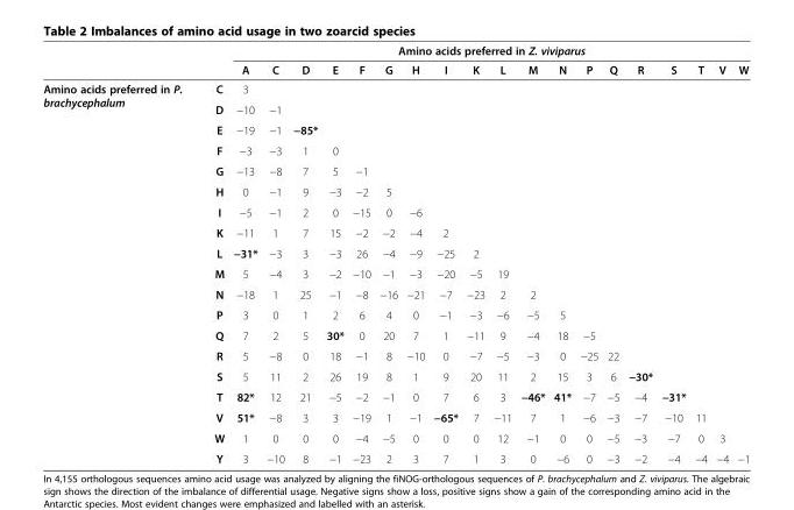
<table><thead><tr><td rowspan="2"></td><td rowspan="2"></td><td colspan="19">Amino acids preferred in Z. viviparus</td></tr><tr><td>A</td><td>C</td><td>D</td><td>E</td><td>F</td><td>G</td><td>H</td><td>I</td><td>K</td><td>L</td><td>M</td><td>N</td><td>P</td><td>Q</td><td>R</td><td>S</td><td>T</td><td>V</td><td>W</td></tr></thead><tbody><tr><td rowspan="19">Amino acids preferred in P. brachycephalum</td><td>C</td><td>3</td><td></td><td></td><td></td><td></td><td></td><td></td><td></td><td></td><td></td><td></td><td></td><td></td><td></td><td></td><td></td><td></td><td></td><td></td></tr><tr><td>D</td><td>−10</td><td>−1</td><td></td><td></td><td></td><td></td><td></td><td></td><td></td><td></td><td></td><td></td><td></td><td></td><td></td><td></td><td></td><td></td><td></td></tr><tr><td>E</td><td>−19</td><td>−1</td><td>−85*</td><td></td><td></td><td></td><td></td><td></td><td></td><td></td><td></td><td></td><td></td><td></td><td></td><td></td><td></td><td></td><td></td></tr><tr><td>F</td><td>−3</td><td>−3</td><td>1</td><td>0</td><td></td><td></td><td></td><td></td><td></td><td></td><td></td><td></td><td></td><td></td><td></td><td></td><td></td><td></td><td></td></tr><tr><td>G</td><td>−13</td><td>−8</td><td>7</td><td>5</td><td>−1</td><td></td><td></td><td></td><td></td><td></td><td></td><td></td><td></td><td></td><td></td><td></td><td></td><td></td><td></td></tr><tr><td>H</td><td>0</td><td>−1</td><td>9</td><td>−3</td><td>−2</td><td>5</td><td></td><td></td><td></td><td></td><td></td><td></td><td></td><td></td><td></td><td></td><td></td><td></td><td></td></tr><tr><td>I</td><td>−5</td><td>−1</td><td>2</td><td>0</td><td>−15</td><td>0</td><td>−6</td><td></td><td></td><td></td><td></td><td></td><td></td><td></td><td></td><td></td><td></td><td></td><td></td></tr><tr><td>K</td><td>−11</td><td>1</td><td>7</td><td>15</td><td>−2</td><td>−2</td><td>−4</td><td>2</td><td></td><td></td><td></td><td></td><td></td><td></td><td></td><td></td><td></td><td></td><td></td></tr><tr><td>L</td><td>−31*</td><td>−3</td><td>3</td><td>−3</td><td>26</td><td>−4</td><td>−9</td><td>−25</td><td>2</td><td></td><td></td><td></td><td></td><td></td><td></td><td></td><td></td><td></td><td></td></tr><tr><td>M</td><td>5</td><td>−4</td><td>3</td><td>−2</td><td>−10</td><td>−1</td><td>−3</td><td>−20</td><td>−5</td><td>19</td><td></td><td></td><td></td><td></td><td></td><td></td><td></td><td></td><td></td></tr><tr><td>N</td><td>−18</td><td>1</td><td>25</td><td>−1</td><td>−8</td><td>−16</td><td>−21</td><td>−7</td><td>−23</td><td>2</td><td>2</td><td></td><td></td><td></td><td></td><td></td><td></td><td></td><td></td></tr><tr><td>P</td><td>3</td><td>0</td><td>1</td><td>2</td><td>6</td><td>4</td><td>0</td><td>−1</td><td>−3</td><td>−6</td><td>−5</td><td>5</td><td></td><td></td><td></td><td></td><td></td><td></td><td></td></tr><tr><td>Q</td><td>7</td><td>2</td><td>5</td><td>30*</td><td>0</td><td>20</td><td>7</td><td>1</td><td>−11</td><td>9</td><td>−4</td><td>18</td><td>−5</td><td></td><td></td><td></td><td></td><td></td><td></td></tr><tr><td>R</td><td>5</td><td>−8</td><td>0</td><td>18</td><td>−1</td><td>8</td><td>−10</td><td>0</td><td>−7</td><td>−5</td><td>−3</td><td>0</td><td>−25</td><td>22</td><td></td><td></td><td></td><td></td><td></td></tr><tr><td>S</td><td>5</td><td>11</td><td>2</td><td>26</td><td>19</td><td>8</td><td>1</td><td>9</td><td>20</td><td>11</td><td>2</td><td>15</td><td>3</td><td>6</td><td>−30*</td><td></td><td></td><td></td><td></td></tr><tr><td>T</td><td>82*</td><td>12</td><td>21</td><td>−5</td><td>−2</td><td>−1</td><td>0</td><td>7</td><td>6</td><td>3</td><td>−46*</td><td>41*</td><td>−7</td><td>−5</td><td>−4</td><td>−31*</td><td></td><td></td><td></td></tr><tr><td>V</td><td>51*</td><td>−8</td><td>3</td><td>3</td><td>−19</td><td>1</td><td>−1</td><td>−65*</td><td>7</td><td>−11</td><td>7</td><td>1</td><td>−6</td><td>−3</td><td>−7</td><td>−10</td><td>11</td><td></td><td></td></tr><tr><td>W</td><td>1</td><td>0</td><td>0</td><td>0</td><td>−4</td><td>−5</td><td>0</td><td>0</td><td>0</td><td>12</td><td>−1</td><td>0</td><td>0</td><td>−5</td><td>−3</td><td>−7</td><td>0</td><td>3</td><td></td></tr><tr><td>Y</td><td>3</td><td>−10</td><td>8</td><td>−1</td><td>−23</td><td>2</td><td>3</td><td>7</td><td>1</td><td>3</td><td>0</td><td>−6</td><td>0</td><td>−3</td><td>−2</td><td>−4</td><td>−4</td><td>−4</td><td>−1</td></tr></tbody></table>